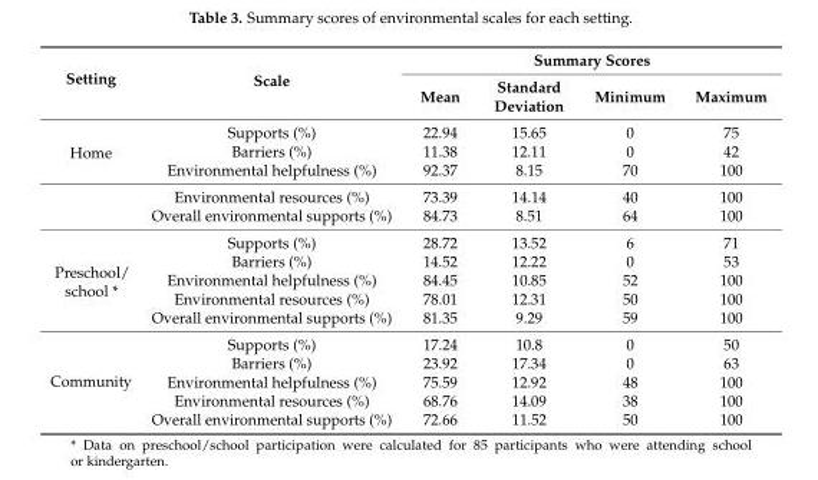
<table><thead><tr><td rowspan="2">Setting</td><td rowspan="2">Scale</td><td colspan="4">Summary Scores</td></tr><tr><td>Mean</td><td>Standard Deviation</td><td>Minimum</td><td>Maximum</td></tr></thead><tbody><tr><td rowspan="5">Home</td><td>Supports (%)</td><td>22.94</td><td>15.65</td><td>0</td><td>75</td></tr><tr><td>Barriers (%)</td><td>11.38</td><td>12.11</td><td>0</td><td>42</td></tr><tr><td>Environmental helpfulness (%)</td><td>92.37</td><td>8.15</td><td>70</td><td>100</td></tr><tr><td>Environmental resources (%)</td><td>73.39</td><td>14.14</td><td>40</td><td>100</td></tr><tr><td>Overall environmental supports (%)</td><td>84.73</td><td>8.51</td><td>64</td><td>100</td></tr><tr><td rowspan="5">Preschool/ school *</td><td>Supports (%)</td><td>28.72</td><td>13.52</td><td>6</td><td>71</td></tr><tr><td>Barriers (%)</td><td>14.52</td><td>12.22</td><td>0</td><td>53</td></tr><tr><td>Environmental helpfulness (%)</td><td>84.45</td><td>10.85</td><td>52</td><td>100</td></tr><tr><td>Environmental resources (%)</td><td>78.01</td><td>12.31</td><td>50</td><td>100</td></tr><tr><td>Overall environmental supports (%)</td><td>81.35</td><td>9.29</td><td>59</td><td>100</td></tr><tr><td rowspan="5">Community</td><td>Supports (%)</td><td>17.24</td><td>10.8</td><td>0</td><td>50</td></tr><tr><td>Barriers (%)</td><td>23.92</td><td>17.34</td><td>0</td><td>63</td></tr><tr><td>Environmental helpfulness (%)</td><td>75.59</td><td>12.92</td><td>48</td><td>100</td></tr><tr><td>Environmental resources (%)</td><td>68.76</td><td>14.09</td><td>38</td><td>100</td></tr><tr><td>Overall environmental supports (%)</td><td>72.66</td><td>11.52</td><td>50</td><td>100</td></tr></tbody></table>